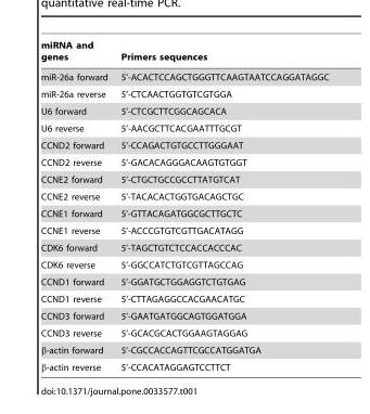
<table><thead><tr><td>miRNA and genes</td><td>Primers sequences</td></tr></thead><tbody><tr><td>miR-26a forward</td><td>5’-ACACTCCAGCTGGGTTCAAGTAATCCAGGATAGGC</td></tr><tr><td>miR-26a reverse</td><td>5’-CTCAACTGGTGTCGTGGA</td></tr><tr><td>U6 forward</td><td>5’-CTCGCTTCGGCAGCACA</td></tr><tr><td>U6 reverse</td><td>5’-AACGCTTCACGAATTTGCGT</td></tr><tr><td>CCND2 forward</td><td>5’-CCAGACTGTGCCTTGGGAAT</td></tr><tr><td>CCND2 reverse</td><td>5’-GACACAGGGACAAGTGTGGT</td></tr><tr><td>CCNE2 forward</td><td>5’-CTGCTGCCGCCTTATGTCAT</td></tr><tr><td>CCNE2 reverse</td><td>5’-TACACACTGGTGACAGCTGC</td></tr><tr><td>CCNE1 forward</td><td>5’-GTTACAGATGGCGCTTGCTC</td></tr><tr><td>CCNE1 reverse</td><td>5’-ACCCGTGTCGTTGACATAGG</td></tr><tr><td>CDK6 forward</td><td>5’-TAGCTGTCTCCACCACCCAC</td></tr><tr><td>CDK6 reverse</td><td>5’-GGCCATCTGTCGTTAGCCAG</td></tr><tr><td>CCND1 forward</td><td>5’-GGATGCTGGAGGTCTGTGAG</td></tr><tr><td>CCND1 reverse</td><td>5’-CTTAGAGGCCACGAACATGC</td></tr><tr><td>CCND3 forward</td><td>5’-GAATGATGGCAGTGGATGGA</td></tr><tr><td>CCND3 reverse</td><td>5’-GCACGCACTGGAAGTAGGAG</td></tr><tr><td>β-actin forward</td><td>5’-CGCCACCAGTTCGCCATGGATGA</td></tr><tr><td>β-actin reverse</td><td>5’-CCACATAGGAGTCCTTCT</td></tr></tbody></table>